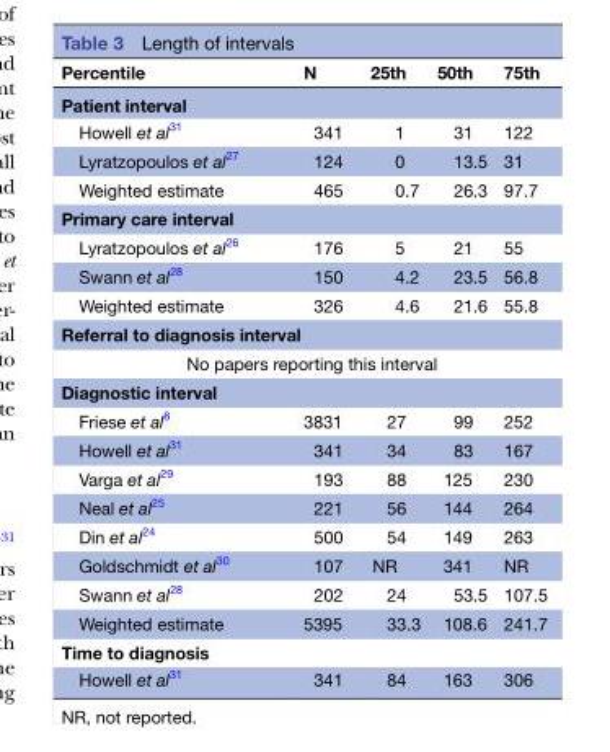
<table><thead><tr><td>Percentile</td><td>N</td><td>25th</td><td>50th</td><td>75th</td></tr></thead><tbody><tr><td colspan="5">Patient interval</td></tr><tr><td>Howell et al31</td><td>341</td><td>1</td><td>31</td><td>122</td></tr><tr><td>Lyratzopoulos et al27</td><td>124</td><td>0</td><td>13.5</td><td>31</td></tr><tr><td>Weighted estimate</td><td>465</td><td>0.7</td><td>26.3</td><td>97.7</td></tr><tr><td colspan="5">Primary care interval</td></tr><tr><td>Lyratzopoulos et al26</td><td>176</td><td>5</td><td>21</td><td>55</td></tr><tr><td>Swann et al28</td><td>150</td><td>4.2</td><td>23.5</td><td>56.8</td></tr><tr><td>Weighted estimate</td><td>326</td><td>4.6</td><td>21.6</td><td>55.8</td></tr><tr><td colspan="5">Referral to diagnosis interval</td></tr><tr><td colspan="5">No papers reporting this interval</td></tr><tr><td colspan="5">Diagnostic interval</td></tr><tr><td>Friese et al8</td><td>3831</td><td>27</td><td>99</td><td>252</td></tr><tr><td>Howell et al31</td><td>341</td><td>34</td><td>83</td><td>167</td></tr><tr><td>Varga et al29</td><td>193</td><td>88</td><td>125</td><td>230</td></tr><tr><td>Neal et al25</td><td>221</td><td>56</td><td>144</td><td>264</td></tr><tr><td>Din et al24</td><td>500</td><td>54</td><td>149</td><td>263</td></tr><tr><td>Goldschmidt et al30</td><td>107</td><td>NR</td><td>341</td><td>NR</td></tr><tr><td>Swann et al28</td><td>202</td><td>24</td><td>53.5</td><td>107.5</td></tr><tr><td>Weighted estimate</td><td>5395</td><td>33.3</td><td>108.6</td><td>241.7</td></tr><tr><td colspan="5">Time to diagnosis</td></tr><tr><td>Howell et al31</td><td>341</td><td>84</td><td>163</td><td>306</td></tr></tbody></table>